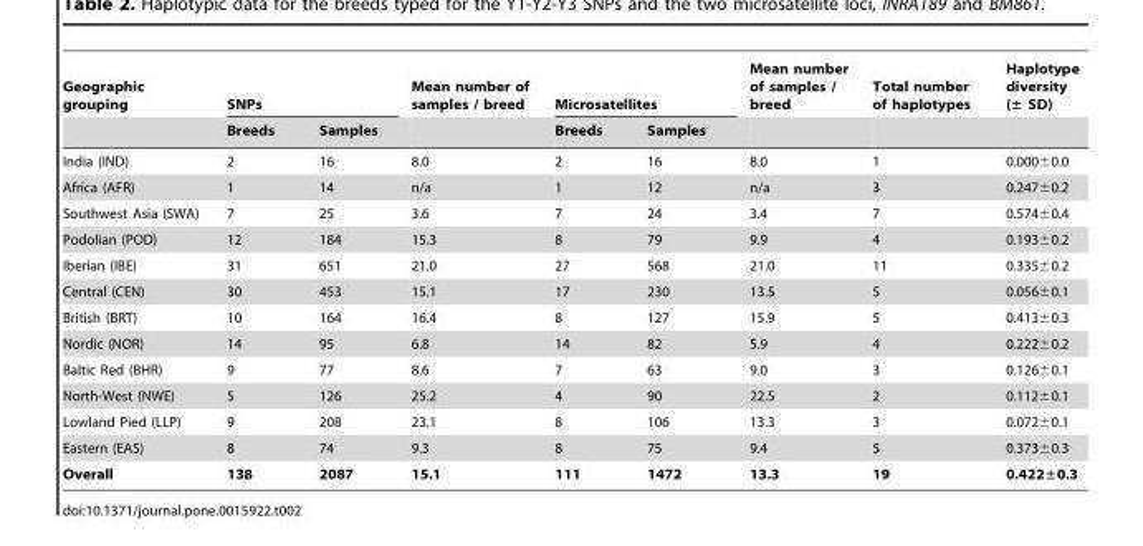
<table><thead><tr><td rowspan="2">Geographic grouping</td><td colspan="2">SNPs</td><td rowspan="2">Mean number of samples / breed</td><td colspan="2">Microsatellites</td><td rowspan="2">Mean number of samples / breed</td><td rowspan="2">Total number of haplotypes</td><td rowspan="2">Haplotype diversity (± SD)</td></tr><tr><td>Breeds</td><td>Samples</td><td>Breeds</td><td>Samples</td></tr></thead><tbody><tr><td>India (IND)</td><td>2</td><td>16</td><td>8.0</td><td>2</td><td>16</td><td>8.0</td><td>1</td><td>0.000±0.0</td></tr><tr><td>Africa (AFR)</td><td>1</td><td>14</td><td>n/a</td><td>1</td><td>12</td><td>n/a</td><td>3</td><td>0.247±0.2</td></tr><tr><td>Southwest Asia (SWA)</td><td>7</td><td>25</td><td>3.6</td><td>7</td><td>24</td><td>3.4</td><td>7</td><td>0.574±0.4</td></tr><tr><td>Podolian (POD)</td><td>12</td><td>184</td><td>15.3</td><td>8</td><td>79</td><td>9.9</td><td>4</td><td>0.193±0.2</td></tr><tr><td>Iberian (IBE)</td><td>31</td><td>651</td><td>21.0</td><td>27</td><td>568</td><td>21.0</td><td>11</td><td>0.335±0.2</td></tr><tr><td>Central (CEN)</td><td>30</td><td>453</td><td>15.1</td><td>17</td><td>230</td><td>13.5</td><td>5</td><td>0.056±0.1</td></tr><tr><td>British (BRT)</td><td>10</td><td>164</td><td>16.4</td><td>8</td><td>127</td><td>15.9</td><td>5</td><td>0.413±0.3</td></tr><tr><td>Nordic (NOR)</td><td>14</td><td>95</td><td>6.8</td><td>14</td><td>82</td><td>5.9</td><td>4</td><td>0.222±0.2</td></tr><tr><td>Baltic Red (BHR)</td><td>9</td><td>77</td><td>8.6</td><td>7</td><td>63</td><td>9.0</td><td>3</td><td>0.126±0.1</td></tr><tr><td>North-West (NWE)</td><td>5</td><td>126</td><td>25.2</td><td>4</td><td>90</td><td>22.5</td><td>2</td><td>0.112±0.1</td></tr><tr><td>Lowland Pied (LLP)</td><td>9</td><td>208</td><td>23.1</td><td>8</td><td>106</td><td>13.3</td><td>3</td><td>0.072±0.1</td></tr><tr><td>Eastern (EAS)</td><td>8</td><td>74</td><td>9.3</td><td>8</td><td>75</td><td>9.4</td><td>5</td><td>0.373±0.3</td></tr><tr><td>Overall</td><td>138</td><td>2087</td><td>15.1</td><td>111</td><td>1472</td><td>13.3</td><td>19</td><td>0.422±0.3</td></tr></tbody></table>